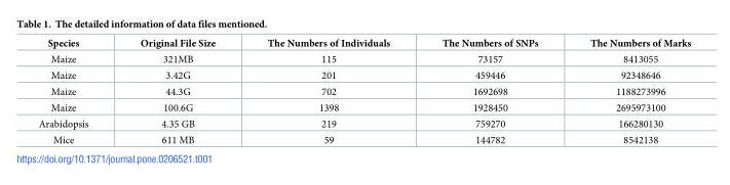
<table><thead><tr><td>Species</td><td>Original File Size</td><td>The Numbers of Individuals</td><td>The Numbers of SNPs</td><td>The Numbers of Marks</td></tr></thead><tbody><tr><td>Maize</td><td>321MB</td><td>115</td><td>73157</td><td>8413055</td></tr><tr><td>Maize</td><td>3.42G</td><td>201</td><td>459446</td><td>92348646</td></tr><tr><td>Maize</td><td>44.3G</td><td>702</td><td>1692698</td><td>1188273996</td></tr><tr><td>Maize</td><td>100.6G</td><td>1398</td><td>1928450</td><td>2695973100</td></tr><tr><td>Arabidopsis</td><td>4.35 GB</td><td>219</td><td>759270</td><td>166280130</td></tr><tr><td>Mice</td><td>611 MB</td><td>59</td><td>144782</td><td>8542138</td></tr></tbody></table>